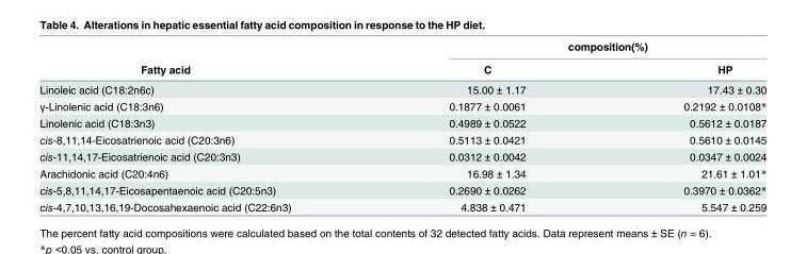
<table><thead><tr><td rowspan="2">Fatty acid</td><td colspan="2">composition(%)</td></tr><tr><td>C</td><td>HP</td></tr></thead><tbody><tr><td>Linoleic acid (C18:2n6c)</td><td>15.00 ± 1.17</td><td>17.43 ± 0.30</td></tr><tr><td>γ-Linolenic acid (C18:3n6)</td><td>0.1877 ± 0.0061</td><td>0.2192 ± 0.0108*</td></tr><tr><td>Linolenic acid (C18:3n3)</td><td>0.4989 ± 0.0522</td><td>0.5612 ± 0.0187</td></tr><tr><td>cis-8,11,14-Eicosatrienoic acid (C20:3n6)</td><td>0.5113 ± 0.0421</td><td>0.5610 ± 0.0145</td></tr><tr><td>cis-11,14,17-Eicosatrienoic acid (C20:3n3)</td><td>0.0312 ± 0.0042</td><td>0.0347 ± 0.0024</td></tr><tr><td>Arachidonic acid (C20:4n6)</td><td>16.98 ± 1.34</td><td>21.61 ± 1.01*</td></tr><tr><td>cis-5,8,11,14,17-Eicosapentaenoic acid (C20:5n3)</td><td>0.2690 ± 0.0262</td><td>0.3970 ± 0.0362*</td></tr><tr><td>cis-4,7,10,13,16,19-Docosahexaenoic acid (C22:6n3)</td><td>4.838 ± 0.471</td><td>5.547 ± 0.259</td></tr></tbody></table>